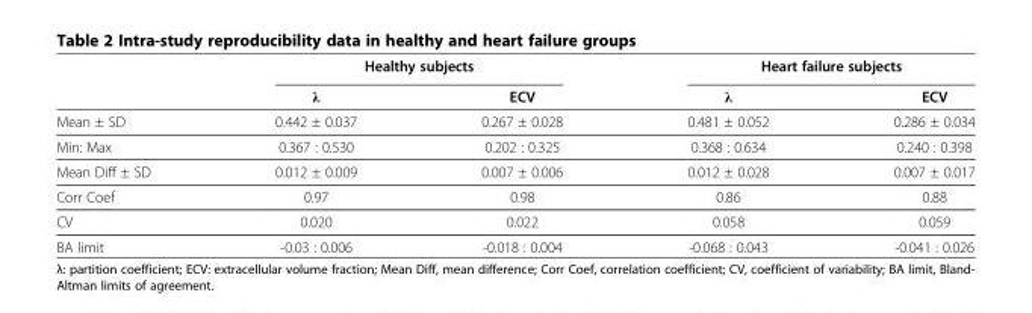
<table><thead><tr><td rowspan="2"></td><td colspan="2">Healthy subjects</td><td colspan="2">Heart failure subjects</td></tr><tr><td>λ</td><td>ECV</td><td>λ</td><td>ECV</td></tr></thead><tbody><tr><td>Mean ± SD</td><td>0.442 ± 0.037</td><td>0.267 ± 0.028</td><td>0.481 ± 0.052</td><td>0.286 ± 0.034</td></tr><tr><td>Min: Max</td><td>0.367 : 0.530</td><td>0.202 : 0.325</td><td>0.368 : 0.634</td><td>0.240 : 0.398</td></tr><tr><td>Mean Diff ± SD</td><td>0.012 ± 0.009</td><td>0.007 ± 0.006</td><td>0.012 ± 0.028</td><td>0.007 ± 0.017</td></tr><tr><td>Corr Coef</td><td>0.97</td><td>0.98</td><td>0.86</td><td>0.88</td></tr><tr><td>CV</td><td>0.020</td><td>0.022</td><td>0.058</td><td>0.059</td></tr><tr><td>BA limit</td><td>-0.03 : 0.006</td><td>-0.018 : 0.004</td><td>-0.068 : 0.043</td><td>-0.041 : 0.026</td></tr></tbody></table>